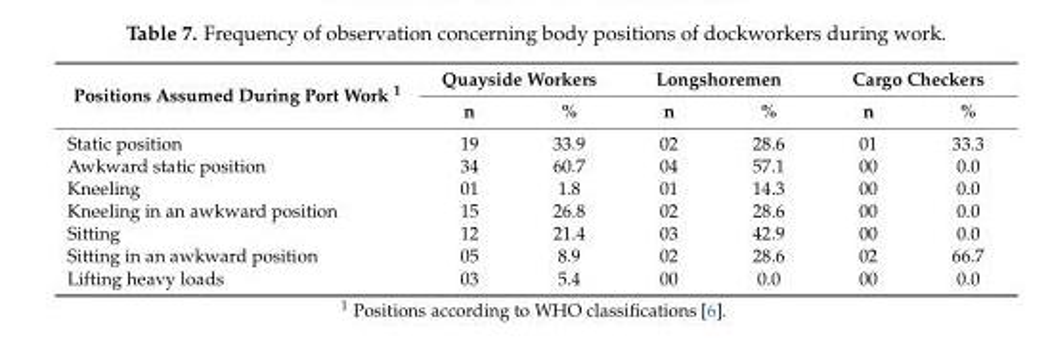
<table><thead><tr><td rowspan="2">Positions Assumed During Port Work <sup>1</sup></td><td colspan="2">Quayside Workers</td><td colspan="2">Longshoremen</td><td colspan="2">Cargo Checkers</td></tr><tr><td>n</td><td>%</td><td>n</td><td>%</td><td>n</td><td>%</td></tr></thead><tbody><tr><td>Static position</td><td>19</td><td>33.9</td><td>02</td><td>28.6</td><td>01</td><td>33.3</td></tr><tr><td>Awkward static position</td><td>34</td><td>60.7</td><td>04</td><td>57.1</td><td>00</td><td>0.0</td></tr><tr><td>Kneeling</td><td>01</td><td>1.8</td><td>01</td><td>14.3</td><td>00</td><td>0.0</td></tr><tr><td>Kneeling in an awkward position</td><td>15</td><td>26.8</td><td>02</td><td>28.6</td><td>00</td><td>0.0</td></tr><tr><td>Sitting</td><td>12</td><td>21.4</td><td>03</td><td>42.9</td><td>00</td><td>0.0</td></tr><tr><td>Sitting in an awkward position</td><td>05</td><td>8.9</td><td>02</td><td>28.6</td><td>02</td><td>66.7</td></tr><tr><td>Lifting heavy loads</td><td>03</td><td>5.4</td><td>00</td><td>0.0</td><td>00</td><td>0.0</td></tr></tbody></table>